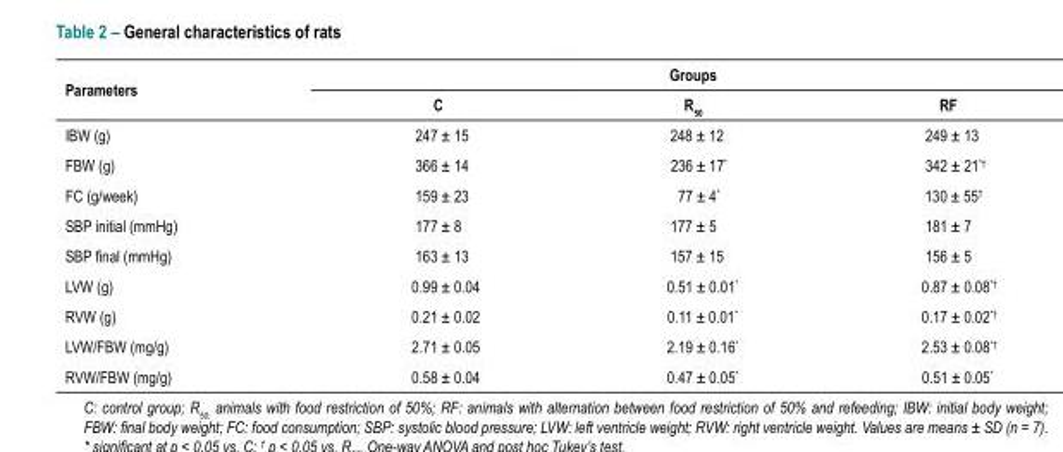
<table><thead><tr><td rowspan="2">Parameters</td><td colspan="3">Groups</td></tr><tr><td>C</td><td>R<sub>50</sub></td><td>RF</td></tr></thead><tbody><tr><td>IBW (g)</td><td>247 ± 15</td><td>248 ± 12</td><td>249 ± 13</td></tr><tr><td>FBW (g)</td><td>366 ± 14</td><td>236 ± 17*</td><td>342 ± 21<sup>*†</sup></td></tr><tr><td>FC (g/week)</td><td>159 ± 23</td><td>77 ± 4*</td><td>130 ± 55<sup>†</sup></td></tr><tr><td>SBP initial (mmHg)</td><td>177 ± 8</td><td>177 ± 5</td><td>181 ± 7</td></tr><tr><td>SBP final (mmHg)</td><td>163 ± 13</td><td>157 ± 15</td><td>156 ± 5</td></tr><tr><td>LVW (g)</td><td>0.99 ± 0.04</td><td>0.51 ± 0.01*</td><td>0.87 ± 0.08<sup>*†</sup></td></tr><tr><td>RVW (g)</td><td>0.21 ± 0.02</td><td>0.11 ± 0.01*</td><td>0.17 ± 0.02<sup>*†</sup></td></tr><tr><td>LVW/FBW (mg/g)</td><td>2.71 ± 0.05</td><td>2.19 ± 0.16*</td><td>2.53 ± 0.08<sup>*†</sup></td></tr><tr><td>RVW/FBW (mg/g)</td><td>0.58 ± 0.04</td><td>0.47 ± 0.05*</td><td>0.51 ± 0.05*</td></tr></tbody></table>